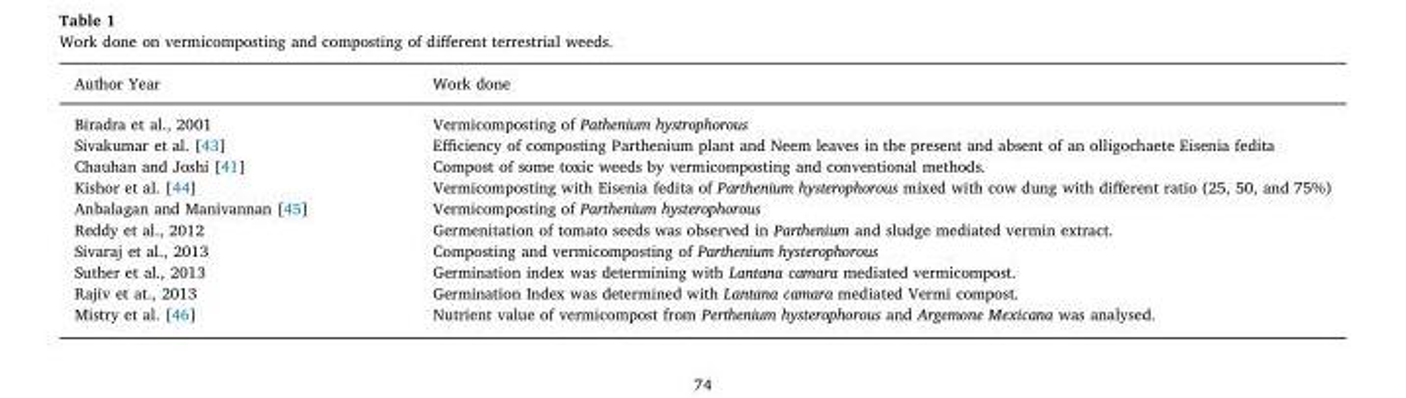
<table><thead><tr><td>Author Year</td><td>Work done</td></tr></thead><tbody><tr><td>Biradra et al., 2001</td><td>Vermicomposting of Pathenium hystrophorous</td></tr><tr><td>Sivakumar et al. [43]</td><td>Efficiency of composting Parthenium plant and Neem leaves in the present and absent of an olligochaete Eisenia fedita</td></tr><tr><td>Chauhan and Joshi [41]</td><td>Compost of some toxic weeds by vermicomposting and conventional methods.</td></tr><tr><td>Kishor et al. [44]</td><td>Vermicomposting with Eisenia fedita of Parthenium hysterophorous mixed with cow dung with different ratio (25, 50, and 75%)</td></tr><tr><td>Anbalagan and Manivannan [45]</td><td>Vermicomposting of Parthenium hysterophorous</td></tr><tr><td>Reddy et al., 2012</td><td>Germenitation of tomato seeds was observed in Parthenium and sludge mediated vermin extract.</td></tr><tr><td>Sivaraj et al., 2013</td><td>Composting and vermicomposting of Parthenium hysterophorous</td></tr><tr><td>Suther et al., 2013</td><td>Germination index was determining with Lantana camara mediated vermicompost.</td></tr><tr><td>Rajiv et at., 2013</td><td>Germination Index was determined with Lantana camara mediated Vermi compost.</td></tr><tr><td>Mistry et al. [46]</td><td>Nutrient value of vermicompost from Perthenium hysterophorous and Argemone Mexicana was analysed.</td></tr></tbody></table>